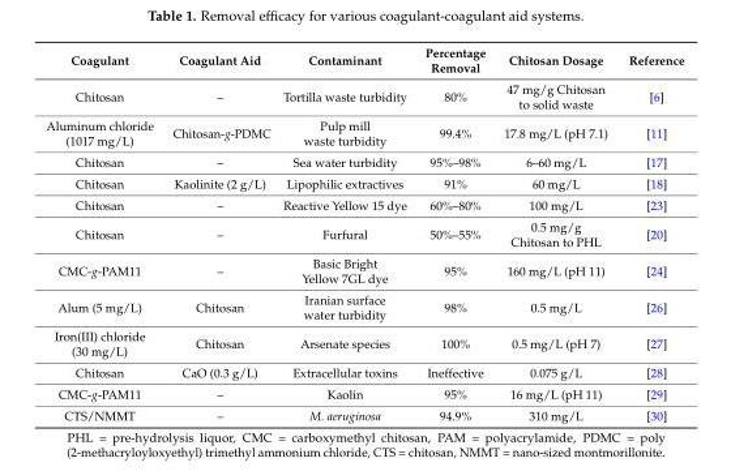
<table><thead><tr><td>Coagulant</td><td>Coagulant Aid</td><td>Contaminant</td><td>Percentage Removal</td><td>Chitosan Dosage</td><td>Reference</td></tr></thead><tbody><tr><td>Chitosan</td><td>–</td><td>Tortilla waste turbidity</td><td>80%</td><td>47 mg/g Chitosan to solid waste</td><td>[6]</td></tr><tr><td>Aluminum chloride (1017 mg/L)</td><td>Chitosan-g-PDMC</td><td>Pulp mill waste turbidity</td><td>99.4%</td><td>17.8 mg/L (pH 7.1)</td><td>[11]</td></tr><tr><td>Chitosan</td><td>–</td><td>Sea water turbidity</td><td>95%–98%</td><td>6–60 mg/L</td><td>[17]</td></tr><tr><td>Chitosan</td><td>Kaolinite (2 g/L)</td><td>Lipophilic extractives</td><td>91%</td><td>60 mg/L</td><td>[18]</td></tr><tr><td>Chitosan</td><td>–</td><td>Reactive Yellow 15 dye</td><td>60%–80%</td><td>100 mg/L</td><td>[23]</td></tr><tr><td>Chitosan</td><td>–</td><td>Furfural</td><td>50%–55%</td><td>0.5 mg/g Chitosan to PHL</td><td>[20]</td></tr><tr><td>CMC-g-PAM11</td><td>–</td><td>Basic Bright Yellow 7GL dye</td><td>95%</td><td>160 mg/L (pH 11)</td><td>[24]</td></tr><tr><td>Alum (5 mg/L)</td><td>Chitosan</td><td>Iranian surface water turbidity</td><td>98%</td><td>0.5 mg/L</td><td>[26]</td></tr><tr><td>Iron(III) chloride (30 mg/L)</td><td>Chitosan</td><td>Arsenate species</td><td>100%</td><td>0.5 mg/L (pH 7)</td><td>[27]</td></tr><tr><td>Chitosan</td><td>CaO (0.3 g/L)</td><td>Extracellular toxins</td><td>Ineffective</td><td>0.075 g/L</td><td>[28]</td></tr><tr><td>CMC-g-PAM11</td><td>–</td><td>Kaolin</td><td>95%</td><td>16 mg/L (pH 11)</td><td>[29]</td></tr><tr><td>CTS/NMMT</td><td>–</td><td>M. aeruginosa</td><td>94.9%</td><td>310 mg/L</td><td>[30]</td></tr></tbody></table>